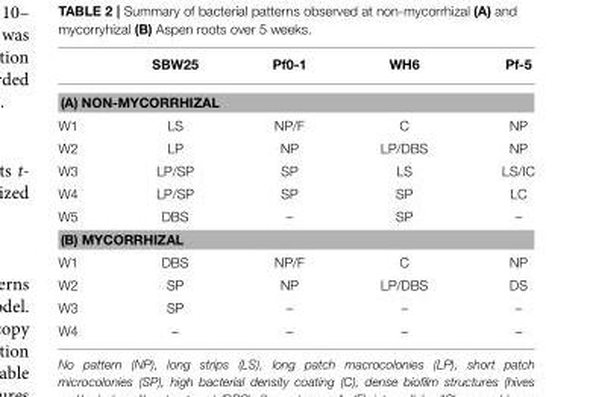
<table><thead><tr><td></td><td>SBW25</td><td>Pf0-1</td><td>WH6</td><td>Pf-5</td></tr></thead><tbody><tr><td colspan="5">(A) NON-MYCORRHIZAL</td></tr><tr><td>W1</td><td>LS</td><td>NP/F</td><td>C</td><td>NP</td></tr><tr><td>W2</td><td>LP</td><td>NP</td><td>LP/DBS</td><td>NP</td></tr><tr><td>W3</td><td>LP/SP</td><td>SP</td><td>LS</td><td>LS/IC</td></tr><tr><td>W4</td><td>LP/SP</td><td>SP</td><td>SP</td><td>LC</td></tr><tr><td>W5</td><td>DBS</td><td>–</td><td>SP</td><td>–</td></tr><tr><td colspan="5">(B) MYCORRHIZAL</td></tr><tr><td>W1</td><td>DBS</td><td>NP/F</td><td>C</td><td>NP</td></tr><tr><td>W2</td><td>SP</td><td>NP</td><td>LP/DBS</td><td>DS</td></tr><tr><td>W3</td><td>SP</td><td>–</td><td>–</td><td>–</td></tr><tr><td>W4</td><td>–</td><td>–</td><td>–</td><td>–</td></tr></tbody></table>